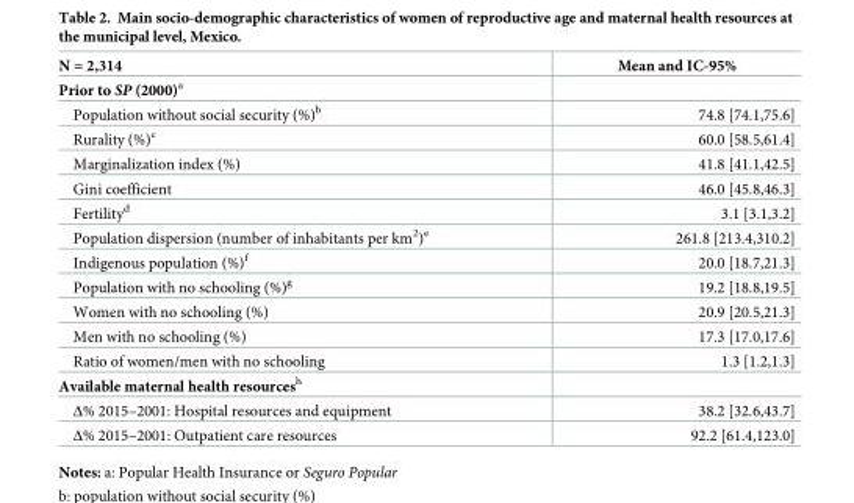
<table><thead><tr><td>N = 2,314</td><td>Mean and IC-95%</td></tr></thead><tbody><tr><td colspan="2">Prior to SP (2000)<sup>a</sup></td></tr><tr><td>Population without social security (%)<sup>b</sup></td><td>74.8 [74.1,75.6]</td></tr><tr><td>Rurality (%)<sup>c</sup></td><td>60.0 [58.5,61.4]</td></tr><tr><td>Marginalization index (%)</td><td>41.8 [41.1,42.5]</td></tr><tr><td>Gini coefficient</td><td>46.0 [45.8,46.3]</td></tr><tr><td>Fertility<sup>d</sup></td><td>3.1 [3.1,3.2]</td></tr><tr><td>Population dispersion (number of inhabitants per km<sup>2</sup>)<sup>e</sup></td><td>261.8 [213.4,310.2]</td></tr><tr><td>Indigenous population (%)<sup>f</sup></td><td>20.0 [18.7,21.3]</td></tr><tr><td>Population with no schooling (%)<sup>g</sup></td><td>19.2 [18.8,19.5]</td></tr><tr><td>Women with no schooling (%)</td><td>20.9 [20.5,21.3]</td></tr><tr><td>Men with no schooling (%)</td><td>17.3 [17.0,17.6]</td></tr><tr><td>Ratio of women/men with no schooling</td><td>1.3 [1.2,1.3]</td></tr><tr><td colspan="2">Available maternal health resources<sup>h</sup></td></tr><tr><td>Δ% 2015–2001: Hospital resources and equipment</td><td>38.2 [32.6,43.7]</td></tr><tr><td>Δ% 2015–2001: Outpatient care resources</td><td>92.2 [61.4,123.0]</td></tr></tbody></table>